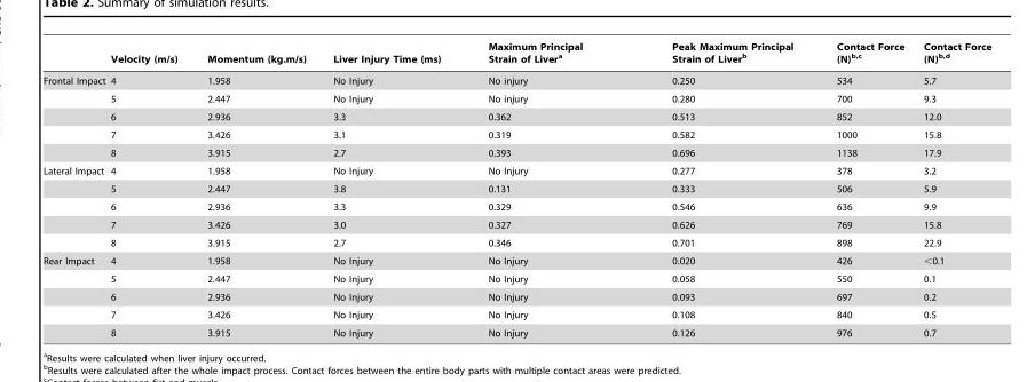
<table><thead><tr><td></td><td>Velocity (m/s)</td><td>Momentum (kg.m/s)</td><td>Liver Injury Time (ms)</td><td>Maximum Principal Strain of Liver<sup>a</sup></td><td>Peak Maximum Principal Strain of Liver<sup>b</sup></td><td>Contact Force (N)<sup>b,</sup>c</td><td>Contact Force (N)<sup>b,</sup>d</td></tr></thead><tbody><tr><td rowspan="5">Frontal Impact</td><td>4</td><td>1.958</td><td>No Injury</td><td>No injury</td><td>0.250</td><td>534</td><td>5.7</td></tr><tr><td>5</td><td>2.447</td><td>No Injury</td><td>No injury</td><td>0.280</td><td>700</td><td>9.3</td></tr><tr><td>6</td><td>2.936</td><td>3.3</td><td>0.362</td><td>0.513</td><td>852</td><td>12.0</td></tr><tr><td>7</td><td>3.426</td><td>3.1</td><td>0.319</td><td>0.582</td><td>1000</td><td>15.8</td></tr><tr><td>8</td><td>3.915</td><td>2.7</td><td>0.393</td><td>0.696</td><td>1138</td><td>17.9</td></tr><tr><td rowspan="5">Lateral Impact</td><td>4</td><td>1.958</td><td>No Injury</td><td>No Injury</td><td>0.277</td><td>378</td><td>3.2</td></tr><tr><td>5</td><td>2.447</td><td>3.8</td><td>0.131</td><td>0.333</td><td>506</td><td>5.9</td></tr><tr><td>6</td><td>2.936</td><td>3.3</td><td>0.329</td><td>0.546</td><td>636</td><td>9.9</td></tr><tr><td>7</td><td>3.426</td><td>3.0</td><td>0.327</td><td>0.626</td><td>769</td><td>15.8</td></tr><tr><td>8</td><td>3.915</td><td>2.7</td><td>0.346</td><td>0.701</td><td>898</td><td>22.9</td></tr><tr><td rowspan="5">Rear Impact</td><td>4</td><td>1.958</td><td>No Injury</td><td>No Injury</td><td>0.020</td><td>426</td><td>&lt;0.1</td></tr><tr><td>5</td><td>2.447</td><td>No Injury</td><td>No Injury</td><td>0.058</td><td>550</td><td>0.1</td></tr><tr><td>6</td><td>2.936</td><td>No Injury</td><td>No Injury</td><td>0.093</td><td>697</td><td>0.2</td></tr><tr><td>7</td><td>3.426</td><td>No Injury</td><td>No Injury</td><td>0.108</td><td>840</td><td>0.5</td></tr><tr><td>8</td><td>3.915</td><td>No Injury</td><td>No Injury</td><td>0.126</td><td>976</td><td>0.7</td></tr></tbody></table>